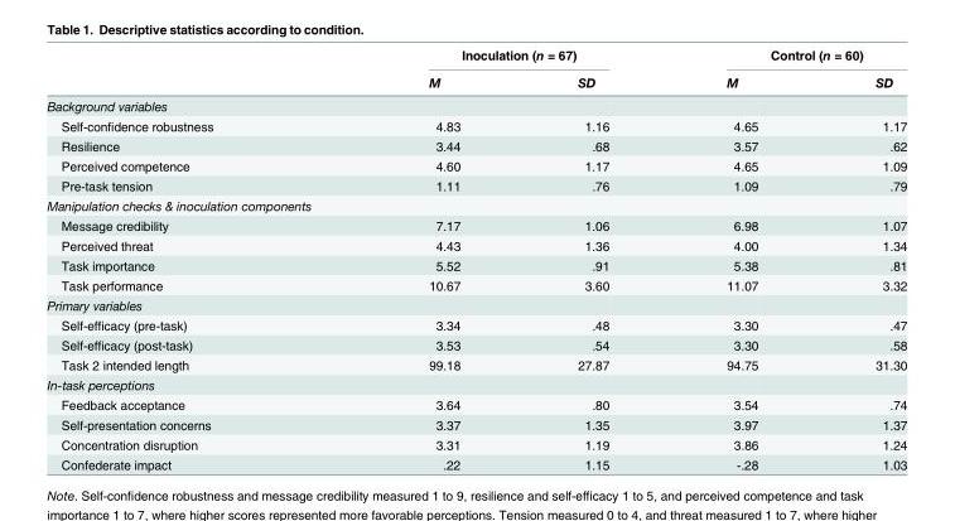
<table><thead><tr><td rowspan="2"></td><td colspan="2">Inoculation (n = 67)</td><td colspan="2">Control (n = 60)</td></tr><tr><td>M</td><td>SD</td><td>M</td><td>SD</td></tr></thead><tbody><tr><td colspan="5">Background variables</td></tr><tr><td>Self-confidence robustness</td><td>4.83</td><td>1.16</td><td>4.65</td><td>1.17</td></tr><tr><td>Resilience</td><td>3.44</td><td>.68</td><td>3.57</td><td>.62</td></tr><tr><td>Perceived competence</td><td>4.60</td><td>1.17</td><td>4.65</td><td>1.09</td></tr><tr><td>Pre-task tension</td><td>1.11</td><td>.76</td><td>1.09</td><td>.79</td></tr><tr><td colspan="5">Manipulation checks &amp; inoculation components</td></tr><tr><td>Message credibility</td><td>7.17</td><td>1.06</td><td>6.98</td><td>1.07</td></tr><tr><td>Perceived threat</td><td>4.43</td><td>1.36</td><td>4.00</td><td>1.34</td></tr><tr><td>Task importance</td><td>5.52</td><td>.91</td><td>5.38</td><td>.81</td></tr><tr><td>Task performance</td><td>10.67</td><td>3.60</td><td>11.07</td><td>3.32</td></tr><tr><td colspan="5">Primary variables</td></tr><tr><td>Self-efficacy (pre-task)</td><td>3.34</td><td>.48</td><td>3.30</td><td>.47</td></tr><tr><td>Self-efficacy (post-task)</td><td>3.53</td><td>.54</td><td>3.30</td><td>.58</td></tr><tr><td>Task 2 intended length</td><td>99.18</td><td>27.87</td><td>94.75</td><td>31.30</td></tr><tr><td colspan="5">In-task perceptions</td></tr><tr><td>Feedback acceptance</td><td>3.64</td><td>.80</td><td>3.54</td><td>.74</td></tr><tr><td>Self-presentation concerns</td><td>3.37</td><td>1.35</td><td>3.97</td><td>1.37</td></tr><tr><td>Concentration disruption</td><td>3.31</td><td>1.19</td><td>3.86</td><td>1.24</td></tr><tr><td>Confederate impact</td><td>.22</td><td>1.15</td><td>-.28</td><td>1.03</td></tr></tbody></table>